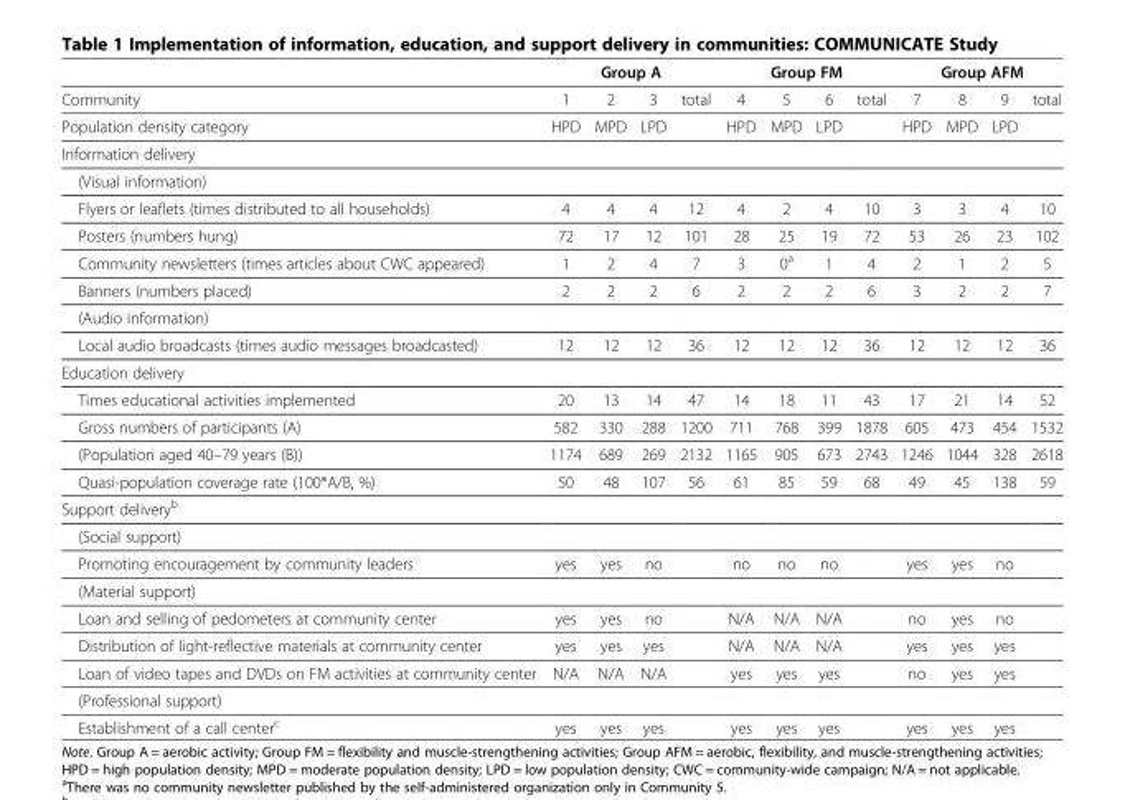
<table><thead><tr><td rowspan="2">Community</td><td colspan="4">Group A</td><td colspan="4">Group FM</td><td colspan="4">Group AFM</td></tr><tr><td>1</td><td>2</td><td>3</td><td>total</td><td>4</td><td>5</td><td>6</td><td>total</td><td>7</td><td>8</td><td>9</td><td>total</td></tr></thead><tbody><tr><td>Population density category</td><td>HPD</td><td>MPD</td><td>LPD</td><td></td><td>HPD</td><td>MPD</td><td>LPD</td><td></td><td>HPD</td><td>MPD</td><td>LPD</td><td></td></tr><tr><td colspan="13">Information delivery</td></tr><tr><td colspan="13">(Visual information)</td></tr><tr><td>Flyers or leaflets (times distributed to all households)</td><td>4</td><td>4</td><td>4</td><td>12</td><td>4</td><td>2</td><td>4</td><td>10</td><td>3</td><td>3</td><td>4</td><td>10</td></tr><tr><td>Posters (numbers hung)</td><td>72</td><td>17</td><td>12</td><td>101</td><td>28</td><td>25</td><td>19</td><td>72</td><td>53</td><td>26</td><td>23</td><td>102</td></tr><tr><td>Community newsletters (times articles about CWC appeared)</td><td>1</td><td>2</td><td>4</td><td>7</td><td>3</td><td>0<sup>a</sup></td><td>1</td><td>4</td><td>2</td><td>1</td><td>2</td><td>5</td></tr><tr><td>Banners (numbers placed)</td><td>2</td><td>2</td><td>2</td><td>6</td><td>2</td><td>2</td><td>2</td><td>6</td><td>3</td><td>2</td><td>2</td><td>7</td></tr><tr><td colspan="13">(Audio information)</td></tr><tr><td>Local audio broadcasts (times audio messages broadcasted)</td><td>12</td><td>12</td><td>12</td><td>36</td><td>12</td><td>12</td><td>12</td><td>36</td><td>12</td><td>12</td><td>12</td><td>36</td></tr><tr><td colspan="13">Education delivery</td></tr><tr><td>Times educational activities implemented</td><td>20</td><td>13</td><td>14</td><td>47</td><td>14</td><td>18</td><td>11</td><td>43</td><td>17</td><td>21</td><td>14</td><td>52</td></tr><tr><td>Gross numbers of participants (A)</td><td>582</td><td>330</td><td>288</td><td>1200</td><td>711</td><td>768</td><td>399</td><td>1878</td><td>605</td><td>473</td><td>454</td><td>1532</td></tr><tr><td>(Population aged 40–79 years (B))</td><td>1174</td><td>689</td><td>269</td><td>2132</td><td>1165</td><td>905</td><td>673</td><td>2743</td><td>1246</td><td>1044</td><td>328</td><td>2618</td></tr><tr><td>Quasi-population coverage rate (100*A/B, %)</td><td>50</td><td>48</td><td>107</td><td>56</td><td>61</td><td>85</td><td>59</td><td>68</td><td>49</td><td>45</td><td>138</td><td>59</td></tr><tr><td colspan="13">Support delivery<sup>b</sup></td></tr><tr><td colspan="13">(Social support)</td></tr><tr><td>Promoting encouragement by community leaders</td><td>yes</td><td>yes</td><td>no</td><td></td><td>no</td><td>no</td><td>no</td><td></td><td>yes</td><td>yes</td><td>no</td><td></td></tr><tr><td colspan="13">(Material support)</td></tr><tr><td>Loan and selling of pedometers at community center</td><td>yes</td><td>yes</td><td>no</td><td></td><td>N/A</td><td>N/A</td><td>N/A</td><td></td><td>no</td><td>yes</td><td>no</td><td></td></tr><tr><td>Distribution of light-reflective materials at community center</td><td>yes</td><td>yes</td><td>yes</td><td></td><td>N/A</td><td>N/A</td><td>N/A</td><td></td><td>yes</td><td>yes</td><td>yes</td><td></td></tr><tr><td>Loan of video tapes and DVDs on FM activities at community center</td><td>N/A</td><td>N/A</td><td>N/A</td><td></td><td>yes</td><td>yes</td><td>yes</td><td></td><td>no</td><td>yes</td><td>yes</td><td></td></tr><tr><td colspan="13">(Professional support)</td></tr><tr><td>Establishment of a call center<sup>c</sup></td><td>yes</td><td>yes</td><td>yes</td><td></td><td>yes</td><td>yes</td><td>yes</td><td></td><td>yes</td><td>yes</td><td>yes</td><td></td></tr></tbody></table>